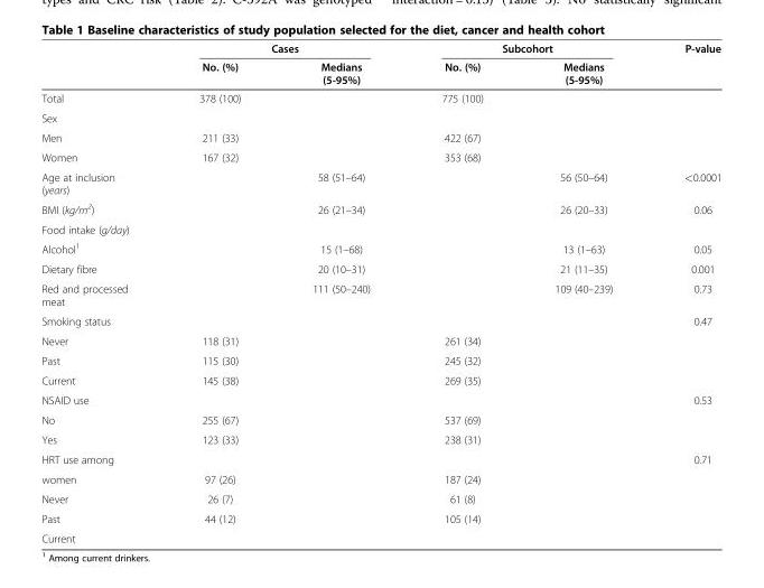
<table><thead><tr><td rowspan="2"></td><td colspan="2">Cases</td><td colspan="2">Subcohort</td><td rowspan="2">P-value</td></tr><tr><td>No. (%)</td><td>Medians (5-95%)</td><td>No. (%)</td><td>Medians (5-95%)</td></tr></thead><tbody><tr><td>Total</td><td>378 (100)</td><td></td><td>775 (100)</td><td></td><td></td></tr><tr><td colspan="6">Sex</td></tr><tr><td>Men</td><td>211 (33)</td><td></td><td>422 (67)</td><td></td><td></td></tr><tr><td>Women</td><td>167 (32)</td><td></td><td>353 (68)</td><td></td><td></td></tr><tr><td>Age at inclusion (years)</td><td></td><td>58 (51–64)</td><td></td><td>56 (50–64)</td><td>&lt;0.0001</td></tr><tr><td>BMI (kg/m<sup>2</sup>)</td><td></td><td>26 (21–34)</td><td></td><td>26 (20–33)</td><td>0.06</td></tr><tr><td colspan="6">Food intake (g/day)</td></tr><tr><td>Alcohol<sup>1</sup></td><td></td><td>15 (1–68)</td><td></td><td>13 (1–63)</td><td>0.05</td></tr><tr><td>Dietary fibre</td><td></td><td>20 (10–31)</td><td></td><td>21 (11–35)</td><td>0.001</td></tr><tr><td>Red and processed meat</td><td></td><td>111 (50–240)</td><td></td><td>109 (40–239)</td><td>0.73</td></tr><tr><td>Smoking status</td><td></td><td></td><td></td><td></td><td>0.47</td></tr><tr><td>Never</td><td>118 (31)</td><td></td><td>261 (34)</td><td></td><td></td></tr><tr><td>Past</td><td>115 (30)</td><td></td><td>245 (32)</td><td></td><td></td></tr><tr><td>Current</td><td>145 (38)</td><td></td><td>269 (35)</td><td></td><td></td></tr><tr><td>NSAID use</td><td></td><td></td><td></td><td></td><td>0.53</td></tr><tr><td>No</td><td>255 (67)</td><td></td><td>537 (69)</td><td></td><td></td></tr><tr><td>Yes</td><td>123 (33)</td><td></td><td>238 (31)</td><td></td><td></td></tr><tr><td>HRT use among</td><td></td><td></td><td></td><td></td><td>0.71</td></tr><tr><td>women</td><td>97 (26)</td><td></td><td>187 (24)</td><td></td><td></td></tr><tr><td>Never</td><td>26 (7)</td><td></td><td>61 (8)</td><td></td><td></td></tr><tr><td>Past</td><td>44 (12)</td><td></td><td>105 (14)</td><td></td><td></td></tr><tr><td>Current</td><td></td><td></td><td></td><td></td><td></td></tr></tbody></table>